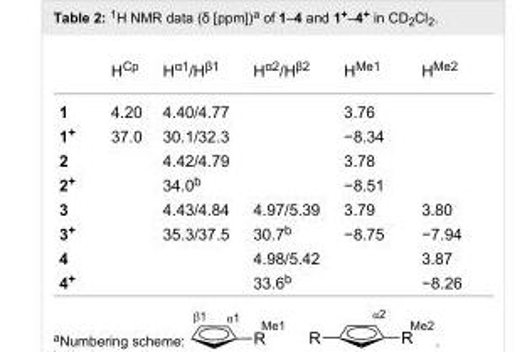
<table><thead><tr><td></td><td>H<sup>Cp</sup></td><td>H<sup>α1</sup>/H<sup>β1</sup></td><td>H<sup>α2</sup>/H<sup>β2</sup></td><td>H<sup>Me1</sup></td><td>H<sup>Me2</sup></td></tr></thead><tbody><tr><td>1</td><td>4.20</td><td>4.40/4.77</td><td></td><td>3.76</td><td></td></tr><tr><td>1<sup>+</sup></td><td>37.0</td><td>30.1/32.3</td><td></td><td>−8.34</td><td></td></tr><tr><td>2</td><td></td><td>4.42/4.79</td><td></td><td>3.78</td><td></td></tr><tr><td>2<sup>+</sup></td><td></td><td>34.0<sup>b</sup></td><td></td><td>−8.51</td><td></td></tr><tr><td>3</td><td></td><td>4.43/4.84</td><td>4.97/5.39</td><td>3.79</td><td>3.80</td></tr><tr><td>3<sup>+</sup></td><td></td><td>35.3/37.5</td><td>30.7<sup>b</sup></td><td>−8.75</td><td>−7.94</td></tr><tr><td>4</td><td></td><td></td><td>4.98/5.42</td><td></td><td>3.87</td></tr><tr><td>4<sup>+</sup></td><td></td><td></td><td>33.6<sup>b</sup></td><td></td><td>−8.26</td></tr></tbody></table>